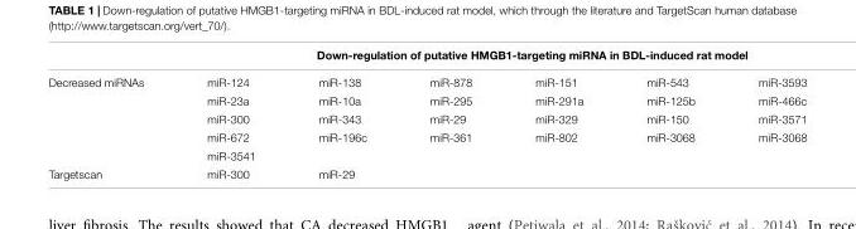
<table><thead><tr><td rowspan="2">Decreased miRNAs</td><td colspan="6">Down-regulation of putative HMGB1-targeting miRNA in BDL-induced rat model</td></tr><tr><td>miR-124</td><td>miR-138</td><td>miR-878</td><td>miR-151</td><td>miR-543</td><td>miR-3593</td></tr></thead><tbody><tr><td></td><td>miR-23a</td><td>miR-10a</td><td>miR-295</td><td>miR-291a</td><td>miR-125b</td><td>miR-466c</td></tr><tr><td></td><td>miR-300</td><td>miR-343</td><td>miR-29</td><td>miR-329</td><td>miR-150</td><td>miR-3571</td></tr><tr><td></td><td>miR-672</td><td>miR-196c</td><td>miR-361</td><td>miR-802</td><td>miR-3068</td><td>miR-3068</td></tr><tr><td></td><td>miR-3541</td><td></td><td></td><td></td><td></td><td></td></tr><tr><td>Targetscan</td><td>miR-300</td><td>miR-29</td><td></td><td></td><td></td><td></td></tr></tbody></table>